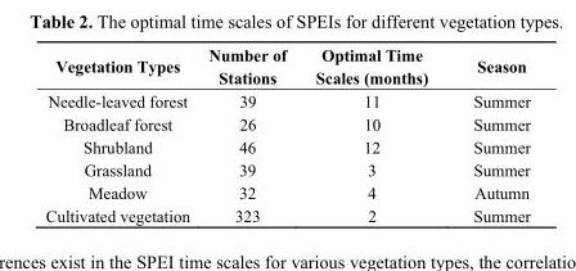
<table><thead><tr><td>Vegetation Types</td><td>Number of Stations</td><td>Optimal Time Scales (months)</td><td>Season</td></tr></thead><tbody><tr><td>Needle-leaved forest</td><td>39</td><td>11</td><td>Summer</td></tr><tr><td>Broadleaf forest</td><td>26</td><td>10</td><td>Summer</td></tr><tr><td>Shrubland</td><td>46</td><td>12</td><td>Summer</td></tr><tr><td>Grassland</td><td>39</td><td>3</td><td>Summer</td></tr><tr><td>Meadow</td><td>32</td><td>4</td><td>Autumn</td></tr><tr><td>Cultivated vegetation</td><td>323</td><td>2</td><td>Summer</td></tr></tbody></table>